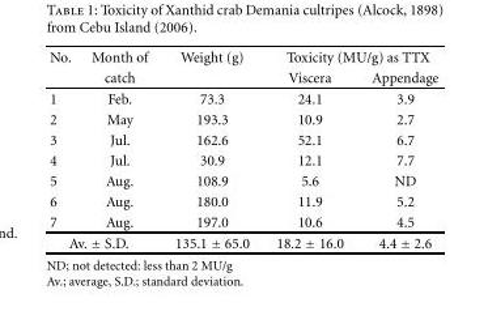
<table><thead><tr><td rowspan="2">No.</td><td rowspan="2">Month of catch</td><td rowspan="2">Weight (g)</td><td colspan="2">Toxicity (MU/g) as TTX</td></tr><tr><td>Viscera</td><td>Appendage</td></tr></thead><tbody><tr><td>1</td><td>Feb.</td><td>73.3</td><td>24.1</td><td>3.9</td></tr><tr><td>2</td><td>May</td><td>193.3</td><td>10.9</td><td>2.7</td></tr><tr><td>3</td><td>Jul.</td><td>162.6</td><td>52.1</td><td>6.7</td></tr><tr><td>4</td><td>Jul.</td><td>30.9</td><td>12.1</td><td>7.7</td></tr><tr><td>5</td><td>Aug.</td><td>108.9</td><td>5.6</td><td>ND</td></tr><tr><td>6</td><td>Aug.</td><td>180.0</td><td>11.9</td><td>5.2</td></tr><tr><td>7</td><td>Aug.</td><td>197.0</td><td>10.6</td><td>4.5</td></tr><tr><td colspan="2">Av. ± S.D.</td><td>135.1 ± 65.0</td><td>18.2 ± 16.0</td><td>4.4 ± 2.6</td></tr></tbody></table>